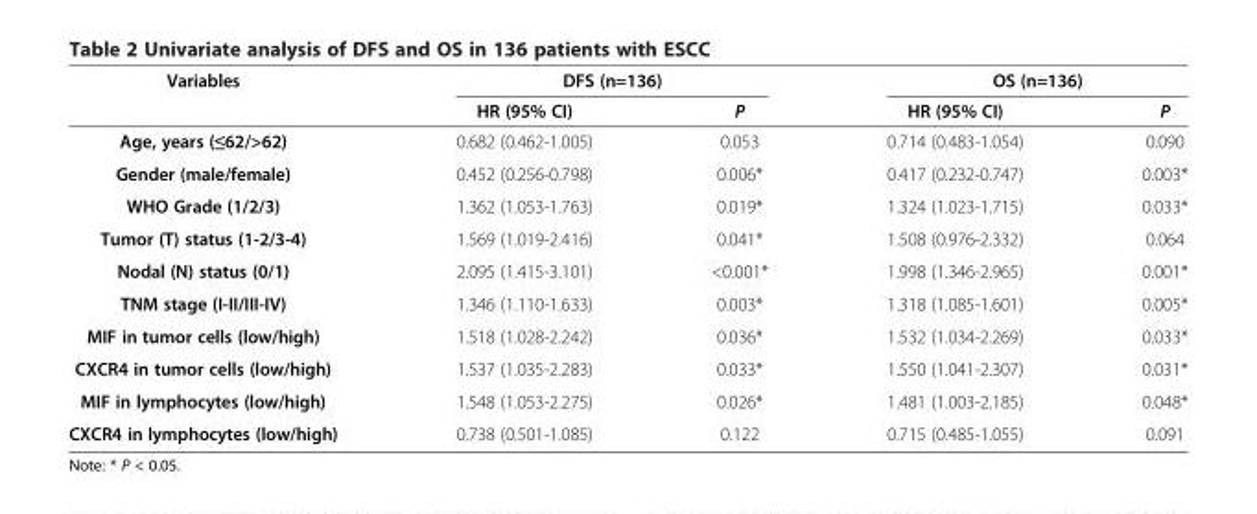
<table><thead><tr><td rowspan="2">Variables</td><td colspan="2">DFS (n=136)</td><td colspan="2">OS (n=136)</td></tr><tr><td>HR (95% CI)</td><td>P</td><td>HR (95% CI)</td><td>P</td></tr></thead><tbody><tr><td>Age, years (≤62/&gt;62)</td><td>0.682 (0.462-1.005)</td><td>0.053</td><td>0.714 (0.483-1.054)</td><td>0.090</td></tr><tr><td>Gender (male/female)</td><td>0.452 (0.256-0.798)</td><td>0.006*</td><td>0.417 (0.232-0.747)</td><td>0.003*</td></tr><tr><td>WHO Grade (1/2/3)</td><td>1.362 (1.053-1.763)</td><td>0.019*</td><td>1.324 (1.023-1.715)</td><td>0.033*</td></tr><tr><td>Tumor (T) status (1-2/3-4)</td><td>1.569 (1.019-2.416)</td><td>0.041*</td><td>1.508 (0.976-2.332)</td><td>0.064</td></tr><tr><td>Nodal (N) status (0/1)</td><td>2.095 (1.415-3.101)</td><td>&lt;0.001*</td><td>1.998 (1.346-2.965)</td><td>0.001*</td></tr><tr><td>TNM stage (I-II/III-IV)</td><td>1.346 (1.110-1.633)</td><td>0.003*</td><td>1.318 (1.085-1.601)</td><td>0.005*</td></tr><tr><td>MIF in tumor cells (low/high)</td><td>1.518 (1.028-2.242)</td><td>0.036*</td><td>1.532 (1.034-2.269)</td><td>0.033*</td></tr><tr><td>CXCR4 in tumor cells (low/high)</td><td>1.537 (1.035-2.283)</td><td>0.033*</td><td>1.550 (1.041-2.307)</td><td>0.031*</td></tr><tr><td>MIF in lymphocytes (low/high)</td><td>1.548 (1.053-2.275)</td><td>0.026*</td><td>1.481 (1.003-2.185)</td><td>0.048*</td></tr><tr><td>CXCR4 in lymphocytes (low/high)</td><td>0.738 (0.501-1.085)</td><td>0.122</td><td>0.715 (0.485-1.055)</td><td>0.091</td></tr></tbody></table>